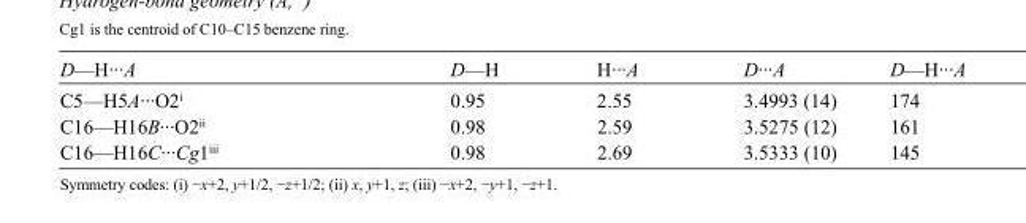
<table><tbody><tr><td>D—H···A</td><td>D—H</td><td>H···A</td><td>D···A</td><td>D—H···A</td></tr><tr><td>C5—H5A···O2<sup>i</sup></td><td>0.95</td><td>2.55</td><td>3.4993 (14)</td><td>174</td></tr><tr><td>C16—H16B···O2<sup>ii</sup></td><td>0.98</td><td>2.59</td><td>3.5275 (12)</td><td>161</td></tr><tr><td>C16—H16C···Cg1<sup>iii</sup></td><td>0.98</td><td>2.69</td><td>3.5333 (10)</td><td>145</td></tr></tbody></table>